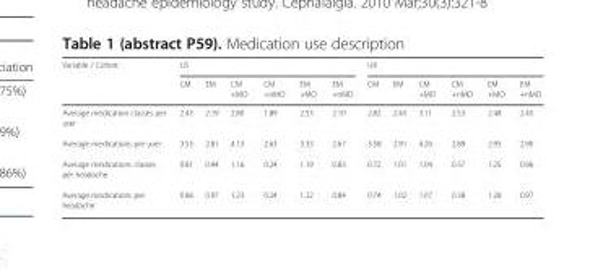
<table><thead><tr><td rowspan="2">Variable / Cohort</td><td colspan="6">US</td><td colspan="6">UK</td></tr><tr><td>CM</td><td>EM</td><td>CM +MO</td><td>CM +nMO</td><td>EM +MO</td><td>EM +nMO</td><td>CM</td><td>EM</td><td>CM +MO</td><td>CM +nMO</td><td>EM +MO</td><td>EM +nMO</td></tr></thead><tbody><tr><td>Average medication classes per user</td><td>2.45</td><td>2.19</td><td>2.80</td><td>1.89</td><td>2.53</td><td>2.10</td><td>2.82</td><td>2.45</td><td>3.11</td><td>2.53</td><td>2.48</td><td>2.45</td></tr><tr><td>Average medications per user</td><td>3.55</td><td>2.81</td><td>4.13</td><td>2.63</td><td>3.33</td><td>2.67</td><td>3.58</td><td>2.91</td><td>4.26</td><td>2.89</td><td>2.95</td><td>2.90</td></tr><tr><td>Average medications classes per headache</td><td>0.81</td><td>0.94</td><td>1.16</td><td>0.24</td><td>1.19</td><td>0.83</td><td>0.72</td><td>1.01</td><td>1.04</td><td>0.37</td><td>1.25</td><td>0.96</td></tr><tr><td>Average medications per headache</td><td>0.86</td><td>0.97</td><td>1.23</td><td>0.24</td><td>1.22</td><td>0.84</td><td>0.74</td><td>1.02</td><td>1.07</td><td>0.38</td><td>1.28</td><td>0.97</td></tr></tbody></table>